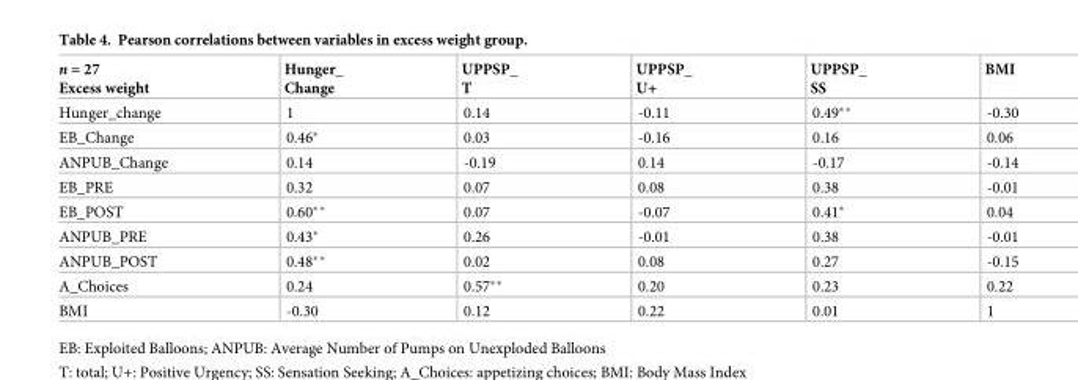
<table><thead><tr><td>n = 27 Excess weight</td><td>Hunger_ Change</td><td>UPPSP_ T</td><td>UPPSP_ U+</td><td>UPPSP_ SS</td><td>BMI</td></tr></thead><tbody><tr><td>Hunger_change</td><td>1</td><td>0.14</td><td>-0.11</td><td>0.49**</td><td>-0.30</td></tr><tr><td>EB_Change</td><td>0.46*</td><td>0.03</td><td>-0.16</td><td>0.16</td><td>0.06</td></tr><tr><td>ANPUB_Change</td><td>0.14</td><td>-0.19</td><td>0.14</td><td>-0.17</td><td>-0.14</td></tr><tr><td>EB_PRE</td><td>0.32</td><td>0.07</td><td>0.08</td><td>0.38</td><td>-0.01</td></tr><tr><td>EB_POST</td><td>0.60**</td><td>0.07</td><td>-0.07</td><td>0.41*</td><td>0.04</td></tr><tr><td>ANPUB_PRE</td><td>0.43*</td><td>0.26</td><td>-0.01</td><td>0.38</td><td>-0.01</td></tr><tr><td>ANPUB_POST</td><td>0.48**</td><td>0.02</td><td>0.08</td><td>0.27</td><td>-0.15</td></tr><tr><td>A_Choices</td><td>0.24</td><td>0.57**</td><td>0.20</td><td>0.23</td><td>0.22</td></tr><tr><td>BMI</td><td>-0.30</td><td>0.12</td><td>0.22</td><td>0.01</td><td>1</td></tr></tbody></table>